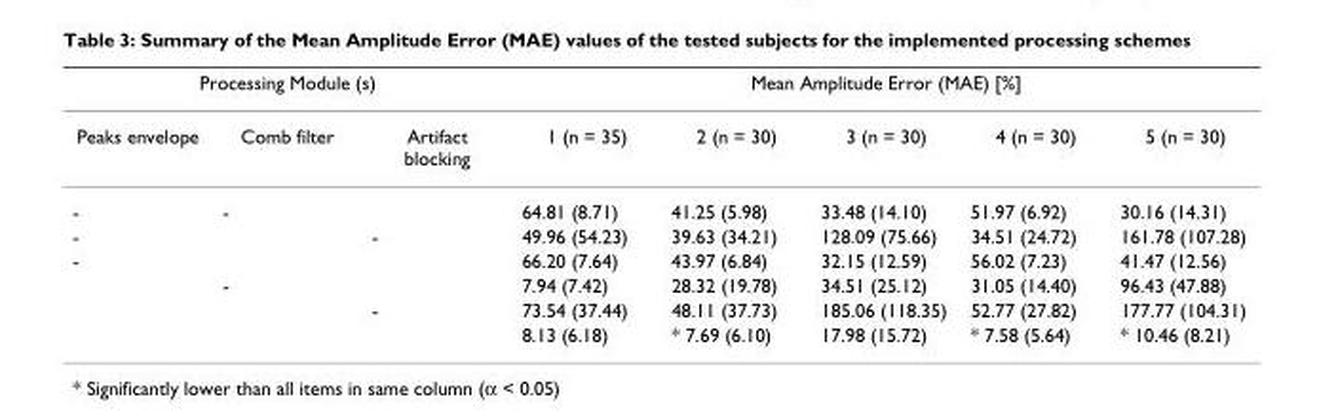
<table><thead><tr><td colspan="3">Processing Module (s)</td><td colspan="5">Mean Amplitude Error (MAE) [%]</td></tr><tr><td>Peaks envelope</td><td>Comb filter</td><td>Artifact blocking</td><td>1 (n = 35)</td><td>2 (n = 30)</td><td>3 (n = 30)</td><td>4 (n = 30)</td><td>5 (n = 30)</td></tr></thead><tbody><tr><td>-</td><td>-</td><td></td><td>64.81 (8.71)</td><td>41.25 (5.98)</td><td>33.48 (14.10)</td><td>51.97 (6.92)</td><td>30.16 (14.31)</td></tr><tr><td>-</td><td></td><td>-</td><td>49.96 (54.23)</td><td>39.63 (34.21)</td><td>128.09 (75.66)</td><td>34.51 (24.72)</td><td>161.78 (107.28)</td></tr><tr><td rowspan="4">-</td><td></td><td></td><td>66.20 (7.64)</td><td>43.97 (6.84)</td><td>32.15 (12.59)</td><td>56.02 (7.23)</td><td>41.47 (12.56)</td></tr><tr><td>-</td><td></td><td>7.94 (7.42)</td><td>28.32 (19.78)</td><td>34.51 (25.12)</td><td>31.05 (14.40)</td><td>96.43 (47.88)</td></tr><tr><td></td><td>-</td><td>73.54 (37.44)</td><td>48.11 (37.73)</td><td>185.06 (118.35)</td><td>52.77 (27.82)</td><td>177.77 (104.31)</td></tr><tr><td></td><td></td><td>8.13 (6.18)</td><td>* 7.69 (6.10)</td><td>17.98 (15.72)</td><td>* 7.58 (5.64)</td><td>* 10.46 (8.21)</td></tr></tbody></table>